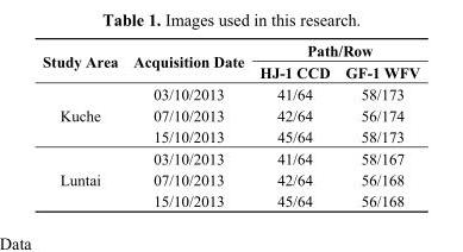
<table><thead><tr><td rowspan="2">Study Area</td><td rowspan="2">Acquisition Date</td><td colspan="2">Path/Row</td></tr><tr><td>HJ-1 CCD</td><td>GF-1 WFV</td></tr></thead><tbody><tr><td rowspan="3">Kuche</td><td>03/10/2013</td><td>41/64</td><td>58/173</td></tr><tr><td>07/10/2013</td><td>42/64</td><td>56/174</td></tr><tr><td>15/10/2013</td><td>45/64</td><td>58/173</td></tr><tr><td rowspan="3">Luntai</td><td>03/10/2013</td><td>41/64</td><td>58/167</td></tr><tr><td>07/10/2013</td><td>42/64</td><td>56/168</td></tr><tr><td>15/10/2013</td><td>45/64</td><td>56/168</td></tr></tbody></table>